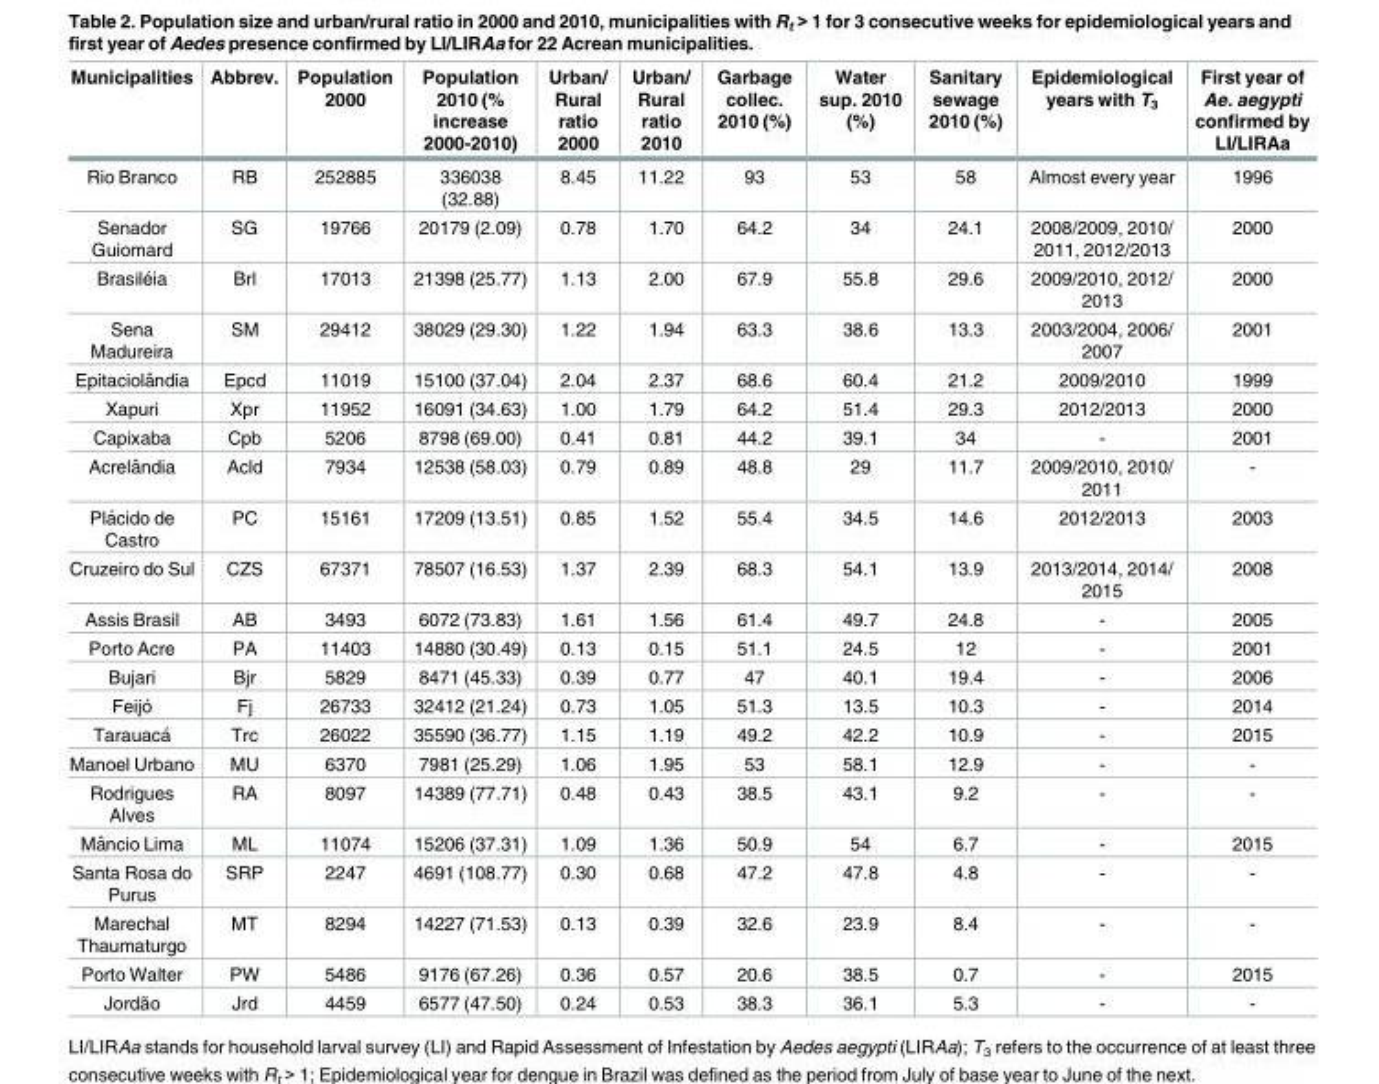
<table><thead><tr><td>Municipalities</td><td>Abbrev.</td><td>Population 2000</td><td>Population 2010 (% increase 2000-2010)</td><td>Urban/ Rural ratio 2000</td><td>Urban/ Rural ratio 2010</td><td>Garbage collec. 2010 (%)</td><td>Water sup. 2010 (%)</td><td>Sanitary sewage 2010 (%)</td><td>Epidemiological years with T<sub>3</sub></td><td>First year of Ae. aegypti confirmed by LI/LIRAa</td></tr></thead><tbody><tr><td>Rio Branco</td><td>RB</td><td>252885</td><td>336038 (32.88)</td><td>8.45</td><td>11.22</td><td>93</td><td>53</td><td>58</td><td>Almost every year</td><td>1996</td></tr><tr><td>Senador Guiomard</td><td>SG</td><td>19766</td><td>20179 (2.09)</td><td>0.78</td><td>1.70</td><td>64.2</td><td>34</td><td>24.1</td><td>2008/2009, 2010/ 2011, 2012/2013</td><td>2000</td></tr><tr><td>Brasile´ia</td><td>Brl</td><td>17013</td><td>21398 (25.77)</td><td>1.13</td><td>2.00</td><td>67.9</td><td>55.8</td><td>29.6</td><td>2009/2010, 2012/ 2013</td><td>2000</td></tr><tr><td>Sena Madureira</td><td>SM</td><td>29412</td><td>38029 (29.30)</td><td>1.22</td><td>1.94</td><td>63.3</td><td>38.6</td><td>13.3</td><td>2003/2004, 2006/ 2007</td><td>2001</td></tr><tr><td>Epitaciolaˆndia</td><td>Epcd</td><td>11019</td><td>15100 (37.04)</td><td>2.04</td><td>2.37</td><td>68.6</td><td>60.4</td><td>21.2</td><td>2009/2010</td><td>1999</td></tr><tr><td>Xapuri</td><td>Xpr</td><td>11952</td><td>16091 (34.63)</td><td>1.00</td><td>1.79</td><td>64.2</td><td>51.4</td><td>29.3</td><td>2012/2013</td><td>2000</td></tr><tr><td>Capixaba</td><td>Cpb</td><td>5206</td><td>8798 (69.00)</td><td>0.41</td><td>0.81</td><td>44.2</td><td>39.1</td><td>34</td><td>-</td><td>2001</td></tr><tr><td>Acrelaˆndia</td><td>Acld</td><td>7934</td><td>12538 (58.03)</td><td>0.79</td><td>0.89</td><td>48.8</td><td>29</td><td>11.7</td><td>2009/2010, 2010/ 2011</td><td>-</td></tr><tr><td>Pla´cido de Castro</td><td>PC</td><td>15161</td><td>17209 (13.51)</td><td>0.85</td><td>1.52</td><td>55.4</td><td>34.5</td><td>14.6</td><td>2012/2013</td><td>2003</td></tr><tr><td>Cruzeiro do Sul</td><td>CZS</td><td>67371</td><td>78507 (16.53)</td><td>1.37</td><td>2.39</td><td>68.3</td><td>54.1</td><td>13.9</td><td>2013/2014, 2014/ 2015</td><td>2008</td></tr><tr><td>Assis Brasil</td><td>AB</td><td>3493</td><td>6072 (73.83)</td><td>1.61</td><td>1.56</td><td>61.4</td><td>49.7</td><td>24.8</td><td>-</td><td>2005</td></tr><tr><td>Porto Acre</td><td>PA</td><td>11403</td><td>14880 (30.49)</td><td>0.13</td><td>0.15</td><td>51.1</td><td>24.5</td><td>12</td><td>-</td><td>2001</td></tr><tr><td>Bujari</td><td>Bjr</td><td>5829</td><td>8471 (45.33)</td><td>0.39</td><td>0.77</td><td>47</td><td>40.1</td><td>19.4</td><td>-</td><td>2006</td></tr><tr><td>Feijo´</td><td>Fj</td><td>26733</td><td>32412 (21.24)</td><td>0.73</td><td>1.05</td><td>51.3</td><td>13.5</td><td>10.3</td><td>-</td><td>2014</td></tr><tr><td>Tarauaca´</td><td>Trc</td><td>26022</td><td>35590 (36.77)</td><td>1.15</td><td>1.19</td><td>49.2</td><td>42.2</td><td>10.9</td><td>-</td><td>2015</td></tr><tr><td>Manoel Urbano</td><td>MU</td><td>6370</td><td>7981 (25.29)</td><td>1.06</td><td>1.95</td><td>53</td><td>58.1</td><td>12.9</td><td>-</td><td>-</td></tr><tr><td>Rodrigues Alves</td><td>RA</td><td>8097</td><td>14389 (77.71)</td><td>0.48</td><td>0.43</td><td>38.5</td><td>43.1</td><td>9.2</td><td>-</td><td>-</td></tr><tr><td>Maˆncio Lima</td><td>ML</td><td>11074</td><td>15206 (37.31)</td><td>1.09</td><td>1.36</td><td>50.9</td><td>54</td><td>6.7</td><td>-</td><td>2015</td></tr><tr><td>Santa Rosa do Purus</td><td>SRP</td><td>2247</td><td>4691 (108.77)</td><td>0.30</td><td>0.68</td><td>47.2</td><td>47.8</td><td>4.8</td><td>-</td><td>-</td></tr><tr><td>Marechal Thaumaturgo</td><td>MT</td><td>8294</td><td>14227 (71.53)</td><td>0.13</td><td>0.39</td><td>32.6</td><td>23.9</td><td>8.4</td><td>-</td><td>-</td></tr><tr><td>Porto Walter</td><td>PW</td><td>5486</td><td>9176 (67.26)</td><td>0.36</td><td>0.57</td><td>20.6</td><td>38.5</td><td>0.7</td><td>-</td><td>2015</td></tr><tr><td>Jordão</td><td>Jrd</td><td>4459</td><td>6577 (47.50)</td><td>0.24</td><td>0.53</td><td>38.3</td><td>36.1</td><td>5.3</td><td>-</td><td>-</td></tr></tbody></table>